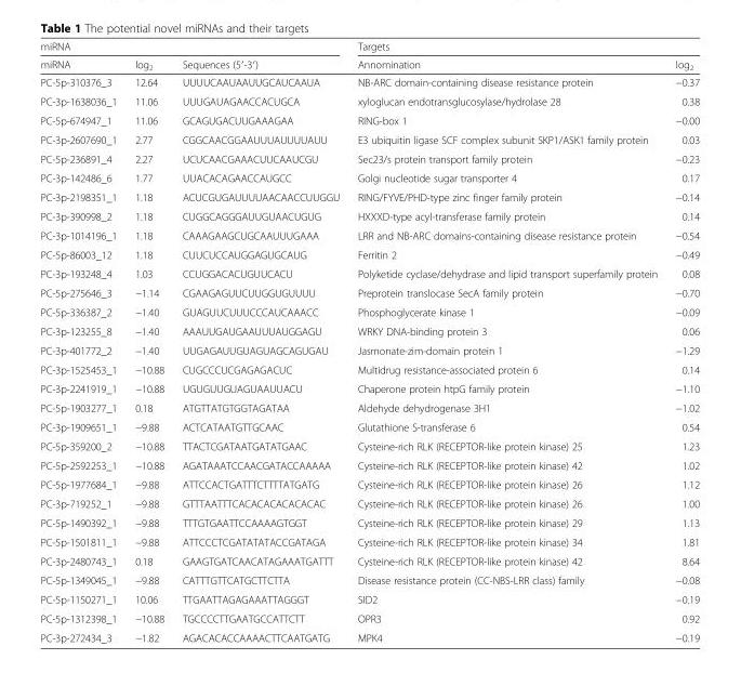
<table><thead><tr><td colspan="3">miRNA</td><td colspan="2">Targets</td></tr><tr><td>miRNA</td><td>log<sub>2</sub></td><td>Sequences (5′-3′)</td><td>Annomination</td><td>log<sub>2</sub></td></tr></thead><tbody><tr><td>PC-5p-310376_3</td><td>12.64</td><td>UUUUCAAUAAUUGCAUCAAUA</td><td>NB-ARC domain-containing disease resistance protein</td><td>−0.37</td></tr><tr><td>PC-3p-1638036_1</td><td>11.06</td><td>UUUGAUAGAACCACUGCA</td><td>xyloglucan endotransglucosylase/hydrolase 28</td><td>0.38</td></tr><tr><td>PC-5p-674947_1</td><td>11.06</td><td>GCAGUGACUUGAAAGAA</td><td>RING-box 1</td><td>−0.00</td></tr><tr><td>PC-3p-2607690_1</td><td>2.77</td><td>CGGCAACGGAAUUUAUUUUAUU</td><td>E3 ubiquitin ligase SCF complex subunit SKP1/ASK1 family protein</td><td>0.03</td></tr><tr><td>PC-5p-236891_4</td><td>2.27</td><td>UCUCAACGAAACUUCAAUCGU</td><td>Sec23/s protein transport family protein</td><td>−0.23</td></tr><tr><td>PC-3p-142486_6</td><td>1.77</td><td>UUACACAGAACCAUGCC</td><td>Golgi nucleotide sugar transporter 4</td><td>0.17</td></tr><tr><td>PC-3p-2198351_1</td><td>1.18</td><td>ACUCGUGAUUUUAACAACCUUGGU</td><td>RING/FYVE/PHD-type zinc finger family protein</td><td>−0.14</td></tr><tr><td>PC-3p-390998_2</td><td>1.18</td><td>CUGGCAGGGAUUGUAACUGUG</td><td>HXXXD-type acyl-transferase family protein</td><td>0.14</td></tr><tr><td>PC-3p-1014196_1</td><td>1.18</td><td>CAAAGAAGCUGCAAUUUGAAA</td><td>LRR and NB-ARC domains-containing disease resistance protein</td><td>−0.54</td></tr><tr><td>PC-5p-86003_12</td><td>1.18</td><td>CUUCUCCAUGGAGUGCAUG</td><td>Ferritin 2</td><td>−0.49</td></tr><tr><td>PC-3p-193248_4</td><td>1.03</td><td>CCUGGACACUGUUCACU</td><td>Polyketide cyclase/dehydrase and lipid transport superfamily protein</td><td>0.08</td></tr><tr><td>PC-5p-275646_3</td><td>−1.14</td><td>CGAAGAGUUCUUGGUGUUUU</td><td>Preprotein translocase SecA family protein</td><td>−0.70</td></tr><tr><td>PC-5p-336387_2</td><td>−1.40</td><td>GUAGUUCUUUCCCAUCAAACC</td><td>Phosphoglycerate kinase 1</td><td>−0.09</td></tr><tr><td>PC-3p-123255_8</td><td>−1.40</td><td>AAAUUGAUGAAUUUAUGGAGU</td><td>WRKY DNA-binding protein 3</td><td>0.06</td></tr><tr><td>PC-3p-401772_2</td><td>−1.40</td><td>UUGAGAUUGUAGUAGCAGUGAU</td><td>Jasmonate-zim-domain protein 1</td><td>−1.29</td></tr><tr><td>PC-3p-1525453_1</td><td>−10.88</td><td>CUGCCCUCGAGAGACUC</td><td>Multidrug resistance-associated protein 6</td><td>0.14</td></tr><tr><td>PC-3p-2241919_1</td><td>−10.88</td><td>UGUGUUGUAGUAAUUACU</td><td>Chaperone protein htpG family protein</td><td>−1.10</td></tr><tr><td>PC-5p-1903277_1</td><td>0.18</td><td>ATGTTATGTGGTAGATAA</td><td>Aldehyde dehydrogenase 3H1</td><td>−1.02</td></tr><tr><td>PC-3p-1909651_1</td><td>−9.88</td><td>ACTCATAATGTTGCAAC</td><td>Glutathione S-transferase 6</td><td>0.54</td></tr><tr><td>PC-5p-359200_2</td><td>−10.88</td><td>TTACTCGATAATGATATGAAC</td><td>Cysteine-rich RLK (RECEPTOR-like protein kinase) 25</td><td>1.23</td></tr><tr><td>PC-5p-2592253_1</td><td>−10.88</td><td>AGATAAATCCAACGATACCAAAAA</td><td>Cysteine-rich RLK (RECEPTOR-like protein kinase) 42</td><td>1.02</td></tr><tr><td>PC-5p-1977684_1</td><td>−9.88</td><td>ATTCCACTGATTTCTTTTATGATG</td><td>Cysteine-rich RLK (RECEPTOR-like protein kinase) 26</td><td>1.12</td></tr><tr><td>PC-3p-719252_1</td><td>−9.88</td><td>GTTTAATTTCACACACACACACAC</td><td>Cysteine-rich RLK (RECEPTOR-like protein kinase) 26</td><td>1.00</td></tr><tr><td>PC-5p-1490392_1</td><td>−9.88</td><td>TTTGTGAATTCCAAAAGTGGT</td><td>Cysteine-rich RLK (RECEPTOR-like protein kinase) 29</td><td>1.13</td></tr><tr><td>PC-5p-1501811_1</td><td>−9.88</td><td>ATTCCCTCGATATATACCGATAGA</td><td>Cysteine-rich RLK (RECEPTOR-like protein kinase) 34</td><td>1.81</td></tr><tr><td>PC-3p-2480743_1</td><td>0.18</td><td>GAAGTGATCAACATAGAAATGATTT</td><td>Cysteine-rich RLK (RECEPTOR-like protein kinase) 42</td><td>8.64</td></tr><tr><td>PC-5p-1349045_1</td><td>−9.88</td><td>CATTTGTTCATGCTTCTTA</td><td>Disease resistance protein (CC-NBS-LRR class) family</td><td>−0.08</td></tr><tr><td>PC-5p-1150271_1</td><td>10.06</td><td>TTGAATTAGAGAAATTAGGGT</td><td>SID2</td><td>−0.19</td></tr><tr><td>PC-5p-1312398_1</td><td>−10.88</td><td>TGCCCCTTGAATGCCATTCTT</td><td>OPR3</td><td>0.92</td></tr><tr><td>PC-3p-272434_3</td><td>−1.82</td><td>AGACACACCAAAACTTCAATGATG</td><td>MPK4</td><td>−0.19</td></tr></tbody></table>